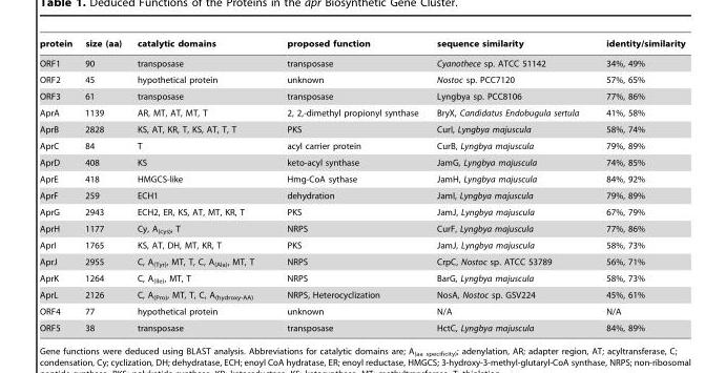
<table><thead><tr><td>protein</td><td>size (aa)</td><td>catalytic domains</td><td>proposed function</td><td>sequence similarity</td><td>identity/similarity</td></tr></thead><tbody><tr><td>ORF1</td><td>90</td><td>transposase</td><td>transposase</td><td>Cyanothece sp. ATCC 51142</td><td>34%, 49%</td></tr><tr><td>ORF2</td><td>45</td><td>hypothetical protein</td><td>unknown</td><td>Nostoc sp. PCC7120</td><td>57%, 65%</td></tr><tr><td>ORF3</td><td>61</td><td>transposase</td><td>transposase</td><td>Lyngbya sp. PCC8106</td><td>77%, 86%</td></tr><tr><td>AprA</td><td>1139</td><td>AR, MT, AT, MT, T</td><td>2, 2,-dimethyl propionyl synthase</td><td>BryX, Candidatus Endobugula sertula</td><td>41%, 58%</td></tr><tr><td>AprB</td><td>2828</td><td>KS, AT, KR, T, KS, AT, T, T</td><td>PKS</td><td>CurI, Lyngbya majuscula</td><td>58%, 74%</td></tr><tr><td>AprC</td><td>84</td><td>T</td><td>acyl carrier protein</td><td>CurB, Lyngbya majuscula</td><td>79%, 89%</td></tr><tr><td>AprD</td><td>408</td><td>KS</td><td>keto-acyl synthase</td><td>JamG, Lyngbya majuscula</td><td>74%, 85%</td></tr><tr><td>AprE</td><td>418</td><td>HMGCS-like</td><td>Hmg-CoA sythase</td><td>JamH, Lyngbya majuscula</td><td>84%, 92%</td></tr><tr><td>AprF</td><td>259</td><td>ECH1</td><td>dehydration</td><td>JamI, Lyngbya majuscula</td><td>79%, 89%</td></tr><tr><td>AprG</td><td>2943</td><td>ECH2, ER, KS, AT, MT, KR, T</td><td>PKS</td><td>JamJ, Lyngbya majuscula</td><td>67%, 79%</td></tr><tr><td>AprH</td><td>1177</td><td>Cy, A<sub>(cys)</sub>, T</td><td>NRPS</td><td>CurF, Lyngbya majuscula</td><td>77%, 86%</td></tr><tr><td>AprI</td><td>1765</td><td>KS, AT, DH, MT, KR, T</td><td>PKS</td><td>JamJ, Lyngbya majuscula</td><td>58%, 73%</td></tr><tr><td>AprJ</td><td>2955</td><td>C, A<sub>(Tyr)</sub>, MT, T, C, A<sub>(Ala)</sub>, MT, T</td><td>NRPS</td><td>CrpC, Nostoc sp. ATCC 53789</td><td>56%, 71%</td></tr><tr><td>AprK</td><td>1264</td><td>C, A<sub>(Ile)</sub>, MT, T</td><td>NRPS</td><td>BarG, Lyngbya majuscula</td><td>58%, 73%</td></tr><tr><td>AprL</td><td>2126</td><td>C, A<sub>(Pro)</sub>, MT, T, C, A<sub>(hydroxy-AA)</sub></td><td>NRPS, Heterocyclization</td><td>NosA, Nostoc sp. GSV224</td><td>45%, 61%</td></tr><tr><td>ORF4</td><td>77</td><td>hypothetical protein</td><td>unknown</td><td>N/A</td><td>N/A</td></tr><tr><td>ORF5</td><td>38</td><td>transposase</td><td>transposase</td><td>HctC, Lyngbya majuscula</td><td>84%, 89%</td></tr></tbody></table>